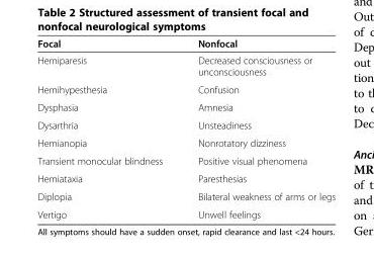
<table><thead><tr><td>Focal</td><td>Nonfocal</td></tr></thead><tbody><tr><td>Hemiparesis</td><td>Decreased consciousness or unconsciousness</td></tr><tr><td>Hemihypesthesia</td><td>Confusion</td></tr><tr><td>Dysphasia</td><td>Amnesia</td></tr><tr><td>Dysarthria</td><td>Unsteadiness</td></tr><tr><td>Hemianopia</td><td>Nonrotatory dizziness</td></tr><tr><td>Transient monocular blindness</td><td>Positive visual phenomena</td></tr><tr><td>Hemiataxia</td><td>Paresthesias</td></tr><tr><td>Diplopia</td><td>Bilateral weakness of arms or legs</td></tr><tr><td>Vertigo</td><td>Unwell feelings</td></tr></tbody></table>